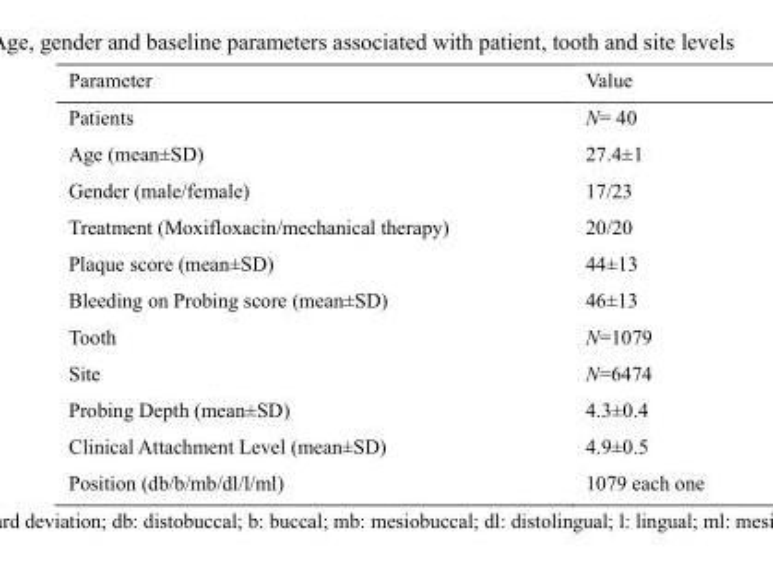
<table><thead><tr><td>Parameter</td><td>Value</td></tr></thead><tbody><tr><td>Patients</td><td>N= 40</td></tr><tr><td>Age (mean±SD)</td><td>27.4±1</td></tr><tr><td>Gender (male/female)</td><td>17/23</td></tr><tr><td>Treatment (Moxifloxacin/mechanical therapy)</td><td>20/20</td></tr><tr><td>Plaque score (mean±SD)</td><td>44±13</td></tr><tr><td>Bleeding on Probing score (mean±SD)</td><td>46±13</td></tr><tr><td>Tooth</td><td>N=1079</td></tr><tr><td>Site</td><td>N=6474</td></tr><tr><td>Probing Depth (mean±SD)</td><td>4.3±0.4</td></tr><tr><td>Clinical Attachment Level (mean±SD) Position (db/b/mb/dl/l/ml)</td><td>4.9±0.5 1079 each one</td></tr></tbody></table>